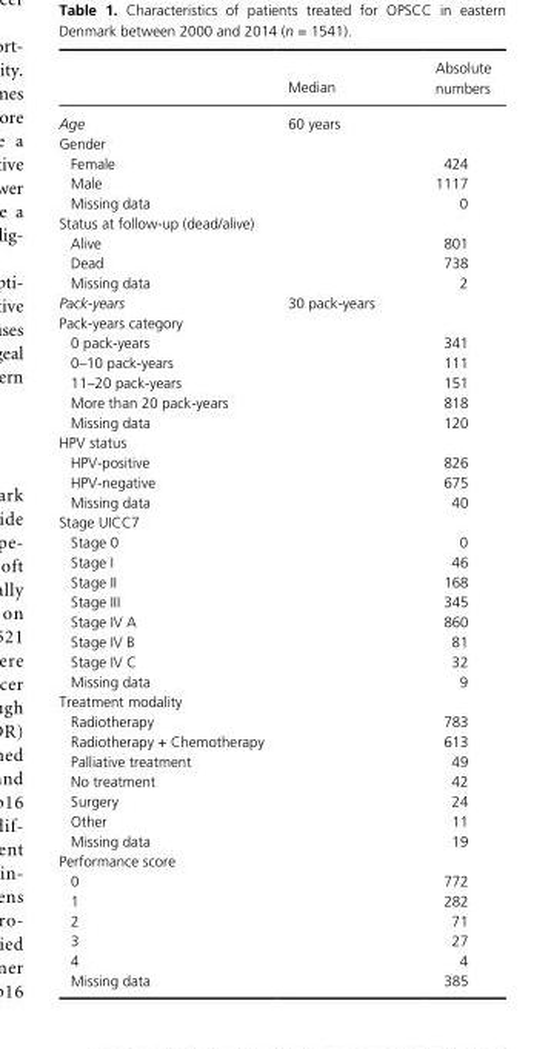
<table><thead><tr><td></td><td>Median</td><td>Absolute numbers</td></tr></thead><tbody><tr><td>Age</td><td>60 years</td><td></td></tr><tr><td colspan="3">Gender</td></tr><tr><td>Female</td><td></td><td>424</td></tr><tr><td>Male</td><td></td><td>1117</td></tr><tr><td>Missing data</td><td></td><td>0</td></tr><tr><td colspan="3">Status at follow- up (dead/alive)</td></tr><tr><td>Alive</td><td></td><td>801</td></tr><tr><td>Dead</td><td></td><td>738</td></tr><tr><td>Missing data</td><td></td><td>2</td></tr><tr><td>Pack-years</td><td>30 pack- years</td><td></td></tr><tr><td colspan="3">Pack- years category</td></tr><tr><td>0 pack- years</td><td></td><td>341</td></tr><tr><td>0–10 pack- years</td><td></td><td>111</td></tr><tr><td>11–20 pack- years</td><td></td><td>151</td></tr><tr><td>More than 20 pack- years</td><td></td><td>818</td></tr><tr><td>Missing data</td><td></td><td>120</td></tr><tr><td colspan="3">HPV status</td></tr><tr><td>HPV- positive</td><td></td><td>826</td></tr><tr><td>HPV- negative</td><td></td><td>675</td></tr><tr><td>Missing data</td><td></td><td>40</td></tr><tr><td colspan="3">Stage UICC7</td></tr><tr><td>Stage 0</td><td></td><td>0</td></tr><tr><td>Stage I</td><td></td><td>46</td></tr><tr><td>Stage II</td><td></td><td>168</td></tr><tr><td>Stage III</td><td></td><td>345</td></tr><tr><td>Stage IV A</td><td></td><td>860</td></tr><tr><td>Stage IV B</td><td></td><td>81</td></tr><tr><td>Stage IV C</td><td></td><td>32</td></tr><tr><td>Missing data</td><td></td><td>9</td></tr><tr><td colspan="3">Treatment modality</td></tr><tr><td>Radiotherapy</td><td></td><td>783</td></tr><tr><td>Radiotherapy + Chemotherapy</td><td></td><td>613</td></tr><tr><td>Palliative treatment</td><td></td><td>49</td></tr><tr><td>No treatment</td><td></td><td>42</td></tr><tr><td>Surgery</td><td></td><td>24</td></tr><tr><td>Other</td><td></td><td>11</td></tr><tr><td>Missing data</td><td></td><td>19</td></tr><tr><td colspan="3">Performance score</td></tr><tr><td>0</td><td></td><td>772</td></tr><tr><td>1</td><td></td><td>282</td></tr><tr><td>2</td><td></td><td>71</td></tr><tr><td>3</td><td></td><td>27</td></tr><tr><td>4</td><td></td><td>4</td></tr><tr><td>Missing data</td><td></td><td>385</td></tr></tbody></table>